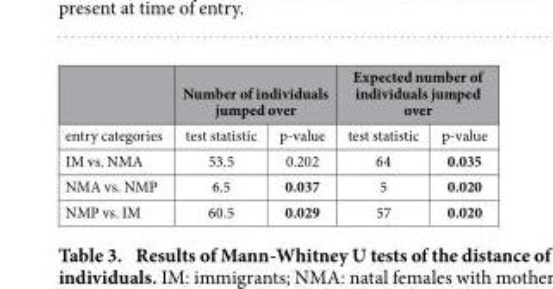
<table><thead><tr><td rowspan="2">entry categories</td><td colspan="2">Number of individuals jumped over</td><td colspan="2">Expected number of individuals jumped over</td></tr><tr><td>test statistic</td><td>p-value</td><td>test statistic</td><td>p-value</td></tr></thead><tbody><tr><td>IM vs. NMA</td><td>53.5</td><td>0.202</td><td>64</td><td>0.035</td></tr><tr><td>NMA vs. NMP</td><td>6.5</td><td>0.037</td><td>5</td><td>0.020</td></tr><tr><td>NMP vs. IM</td><td>60.5</td><td>0.029</td><td>57</td><td>0.020</td></tr></tbody></table>